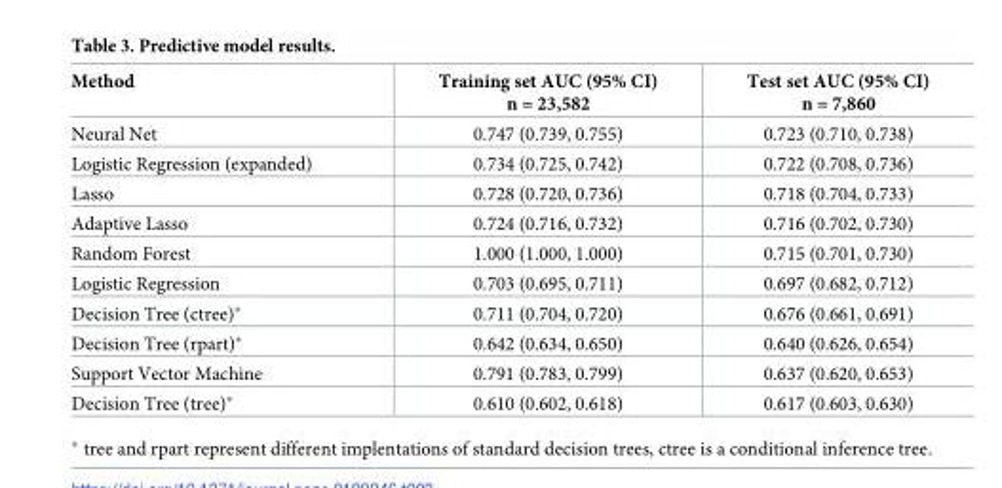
<table><thead><tr><td>Method</td><td>Training set AUC (95% CI) n = 23,582</td><td>Test set AUC (95% CI) n = 7,860</td></tr></thead><tbody><tr><td>Neural Net</td><td>0.747 (0.739, 0.755)</td><td>0.723 (0.710, 0.738)</td></tr><tr><td>Logistic Regression (expanded)</td><td>0.734 (0.725, 0.742)</td><td>0.722 (0.708, 0.736)</td></tr><tr><td>Lasso</td><td>0.728 (0.720, 0.736)</td><td>0.718 (0.704, 0.733)</td></tr><tr><td>Adaptive Lasso</td><td>0.724 (0.716, 0.732)</td><td>0.716 (0.702, 0.730)</td></tr><tr><td>Random Forest</td><td>1.000 (1.000, 1.000)</td><td>0.715 (0.701, 0.730)</td></tr><tr><td>Logistic Regression</td><td>0.703 (0.695, 0.711)</td><td>0.697 (0.682, 0.712)</td></tr><tr><td>Decision Tree (ctree)*</td><td>0.711 (0.704, 0.720)</td><td>0.676 (0.661, 0.691)</td></tr><tr><td>Decision Tree (rpart)*</td><td>0.642 (0.634, 0.650)</td><td>0.640 (0.626, 0.654)</td></tr><tr><td>Support Vector Machine</td><td>0.791 (0.783, 0.799)</td><td>0.637 (0.620, 0.653)</td></tr><tr><td>Decision Tree (tree)*</td><td>0.610 (0.602, 0.618)</td><td>0.617 (0.603, 0.630)</td></tr></tbody></table>